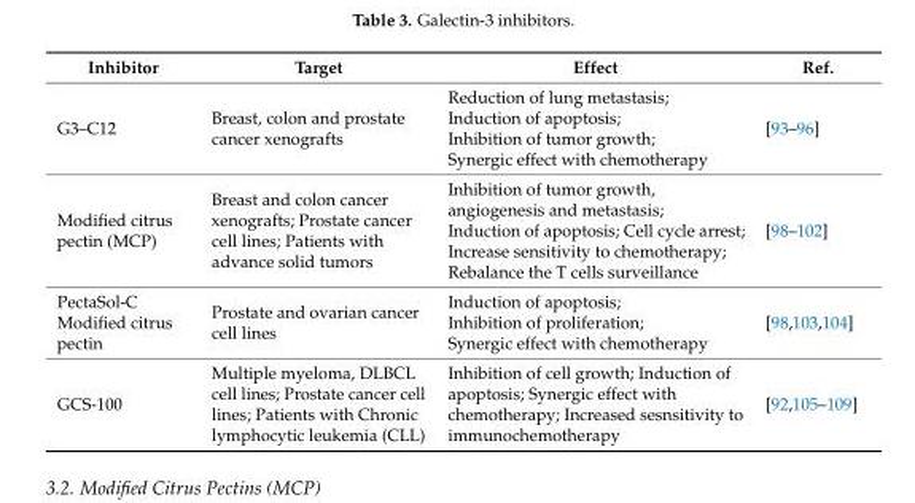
<table><thead><tr><td>Inhibitor</td><td>Target</td><td>Effect</td><td>Ref.</td></tr></thead><tbody><tr><td>G3–C12</td><td>Breast, colon and prostate cancer xenografts</td><td>Reduction of lung metastasis; Induction of apoptosis; Inhibition of tumor growth; Synergic effect with chemotherapy</td><td>[93–96]</td></tr><tr><td>Modified citrus pectin (MCP)</td><td>Breast and colon cancer xenografts; Prostate cancer cell lines; Patients with advance solid tumors</td><td>Inhibition of tumor growth, angiogenesis and metastasis; Induction of apoptosis; Cell cycle arrest; Increase sensitivity to chemotherapy; Rebalance the T cells surveillance</td><td>[98–102]</td></tr><tr><td>PectaSol-C Modified citrus pectin</td><td>Prostate and ovarian cancer cell lines</td><td>Induction of apoptosis; Inhibition of proliferation; Synergic effect with chemotherapy</td><td>[98,103,104]</td></tr><tr><td>GCS-100</td><td>Multiple myeloma, DLBCL cell lines; Prostate cancer cell lines; Patients with Chronic lymphocytic leukemia (CLL)</td><td>Inhibition of cell growth; Induction of apoptosis; Synergic effect with chemotherapy; Increased sesnsitivity to immunochemotherapy</td><td>[92,105–109]</td></tr></tbody></table>